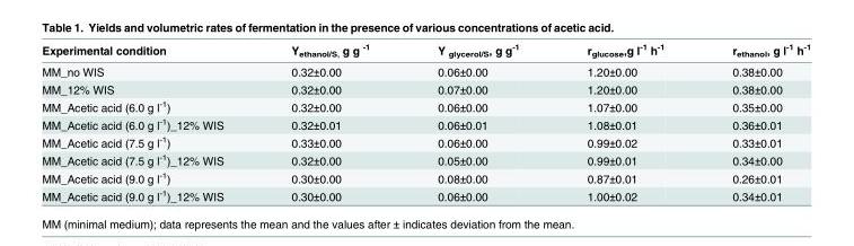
<table><thead><tr><td>Experimental condition</td><td>Y<sub>ethanol/S,</sub> g g <sup>-1</sup></td><td>Y <sub>glycerol/S</sub>, g g<sup>-1</sup></td><td>r<sub>glucose</sub>,g l<sup>-1</sup> h<sup>-1</sup></td><td>r<sub>ethanol</sub>, g l<sup>-1</sup> h<sup>-1</sup></td></tr></thead><tbody><tr><td>MM_no WIS</td><td>0.32±0.00</td><td>0.06±0.00</td><td>1.20±0.00</td><td>0.38±0.00</td></tr><tr><td>MM_12% WIS</td><td>0.32±0.00</td><td>0.07±0.00</td><td>1.20±0.00</td><td>0.38±0.00</td></tr><tr><td>MM_Acetic acid (6.0 g l<sup>-1</sup>)</td><td>0.32±0.00</td><td>0.06±0.00</td><td>1.07±0.00</td><td>0.35±0.00</td></tr><tr><td>MM_Acetic acid (6.0 g l<sup>-1</sup>)_12% WIS</td><td>0.32±0.01</td><td>0.06±0.01</td><td>1.08±0.01</td><td>0.36±0.01</td></tr><tr><td>MM_Acetic acid (7.5 g l<sup>-1</sup>)</td><td>0.33±0.00</td><td>0.06±0.00</td><td>0.99±0.02</td><td>0.33±0.01</td></tr><tr><td>MM_Acetic acid (7.5 g l<sup>-1</sup>)_12% WIS</td><td>0.32±0.00</td><td>0.05±0.00</td><td>0.99±0.01</td><td>0.34±0.00</td></tr><tr><td>MM_Acetic acid (9.0 g l<sup>-1</sup>)</td><td>0.30±0.00</td><td>0.08±0.00</td><td>0.87±0.01</td><td>0.26±0.01</td></tr><tr><td>MM_Acetic acid (9.0 g l<sup>-1</sup>)_12% WIS</td><td>0.30±0.00</td><td>0.06±0.00</td><td>1.00±0.02</td><td>0.34±0.01</td></tr></tbody></table>